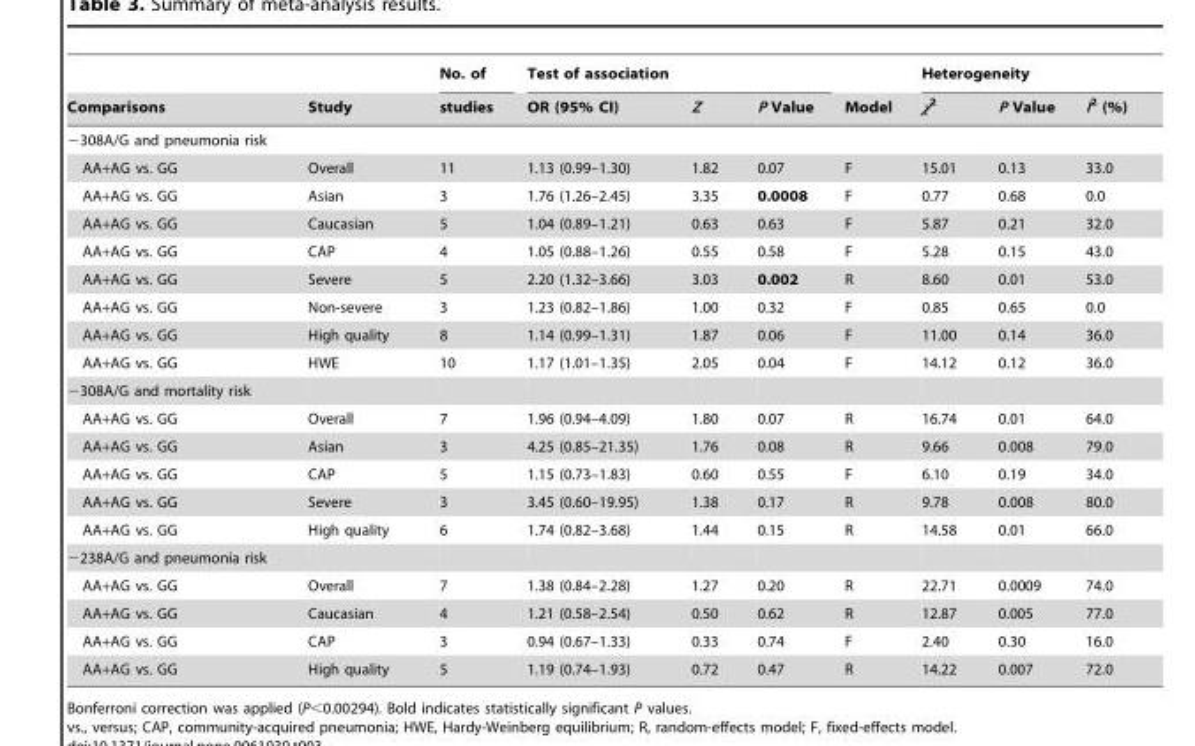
<table><thead><tr><td rowspan="2">Comparisons</td><td rowspan="2">Study</td><td rowspan="2">No. of studies</td><td colspan="3">Test of association</td><td rowspan="2">Model</td><td colspan="3">Heterogeneity</td></tr><tr><td>OR (95% CI)</td><td>Z</td><td>P Value</td><td>χ<sup>2</sup></td><td>P Value</td><td>I<sup>2</sup> (%)</td></tr></thead><tbody><tr><td colspan="10">−308A/G and pneumonia risk</td></tr><tr><td>AA+AG vs. GG</td><td>Overall</td><td>11</td><td>1.13 (0.99–1.30)</td><td>1.82</td><td>0.07</td><td>F</td><td>15.01</td><td>0.13</td><td>33.0</td></tr><tr><td>AA+AG vs. GG</td><td>Asian</td><td>3</td><td>1.76 (1.26–2.45)</td><td>3.35</td><td>0.0008</td><td>F</td><td>0.77</td><td>0.68</td><td>0.0</td></tr><tr><td>AA+AG vs. GG</td><td>Caucasian</td><td>5</td><td>1.04 (0.89–1.21)</td><td>0.63</td><td>0.63</td><td>F</td><td>5.87</td><td>0.21</td><td>32.0</td></tr><tr><td>AA+AG vs. GG</td><td>CAP</td><td>4</td><td>1.05 (0.88–1.26)</td><td>0.55</td><td>0.58</td><td>F</td><td>5.28</td><td>0.15</td><td>43.0</td></tr><tr><td>AA+AG vs. GG</td><td>Severe</td><td>5</td><td>2.20 (1.32–3.66)</td><td>3.03</td><td>0.002</td><td>R</td><td>8.60</td><td>0.01</td><td>53.0</td></tr><tr><td>AA+AG vs. GG</td><td>Non-severe</td><td>3</td><td>1.23 (0.82–1.86)</td><td>1.00</td><td>0.32</td><td>F</td><td>0.85</td><td>0.65</td><td>0.0</td></tr><tr><td>AA+AG vs. GG</td><td>High quality</td><td>8</td><td>1.14 (0.99–1.31)</td><td>1.87</td><td>0.06</td><td>F</td><td>11.00</td><td>0.14</td><td>36.0</td></tr><tr><td>AA+AG vs. GG</td><td>HWE</td><td>10</td><td>1.17 (1.01–1.35)</td><td>2.05</td><td>0.04</td><td>F</td><td>14.12</td><td>0.12</td><td>36.0</td></tr><tr><td colspan="10">−308A/G and mortality risk</td></tr><tr><td>AA+AG vs. GG</td><td>Overall</td><td>7</td><td>1.96 (0.94–4.09)</td><td>1.80</td><td>0.07</td><td>R</td><td>16.74</td><td>0.01</td><td>64.0</td></tr><tr><td>AA+AG vs. GG</td><td>Asian</td><td>3</td><td>4.25 (0.85–21.35)</td><td>1.76</td><td>0.08</td><td>R</td><td>9.66</td><td>0.008</td><td>79.0</td></tr><tr><td>AA+AG vs. GG</td><td>CAP</td><td>5</td><td>1.15 (0.73–1.83)</td><td>0.60</td><td>0.55</td><td>F</td><td>6.10</td><td>0.19</td><td>34.0</td></tr><tr><td>AA+AG vs. GG</td><td>Severe</td><td>3</td><td>3.45 (0.60–19.95)</td><td>1.38</td><td>0.17</td><td>R</td><td>9.78</td><td>0.008</td><td>80.0</td></tr><tr><td>AA+AG vs. GG</td><td>High quality</td><td>6</td><td>1.74 (0.82–3.68)</td><td>1.44</td><td>0.15</td><td>R</td><td>14.58</td><td>0.01</td><td>66.0</td></tr><tr><td colspan="10">−238A/G and pneumonia risk</td></tr><tr><td>AA+AG vs. GG</td><td>Overall</td><td>7</td><td>1.38 (0.84–2.28)</td><td>1.27</td><td>0.20</td><td>R</td><td>22.71</td><td>0.0009</td><td>74.0</td></tr><tr><td>AA+AG vs. GG</td><td>Caucasian</td><td>4</td><td>1.21 (0.58–2.54)</td><td>0.50</td><td>0.62</td><td>R</td><td>12.87</td><td>0.005</td><td>77.0</td></tr><tr><td>AA+AG vs. GG</td><td>CAP</td><td>3</td><td>0.94 (0.67–1.33)</td><td>0.33</td><td>0.74</td><td>F</td><td>2.40</td><td>0.30</td><td>16.0</td></tr><tr><td>AA+AG vs. GG</td><td>High quality</td><td>5</td><td>1.19 (0.74–1.93)</td><td>0.72</td><td>0.47</td><td>R</td><td>14.22</td><td>0.007</td><td>72.0</td></tr></tbody></table>